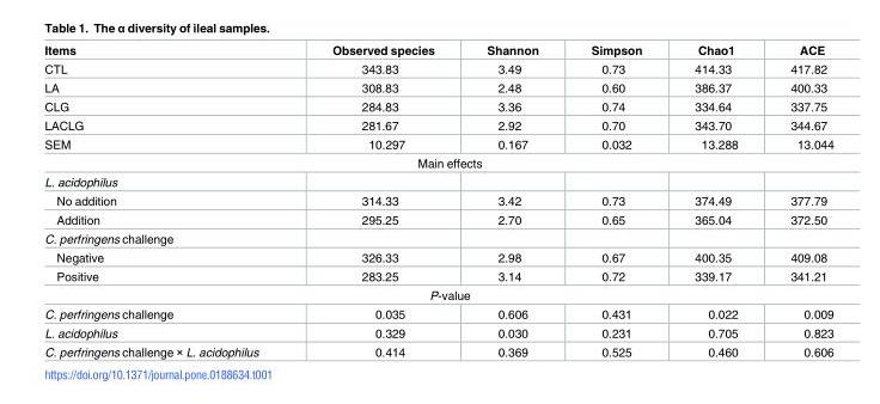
<table><thead><tr><td>Items</td><td>Observed species</td><td>Shannon</td><td>Simpson</td><td>Chao1</td><td>ACE</td></tr></thead><tbody><tr><td>CTL</td><td>343.83</td><td>3.49</td><td>0.73</td><td>414.33</td><td>417.82</td></tr><tr><td>LA</td><td>308.83</td><td>2.48</td><td>0.60</td><td>386.37</td><td>400.33</td></tr><tr><td>CLG</td><td>284.83</td><td>3.36</td><td>0.74</td><td>334.64</td><td>337.75</td></tr><tr><td>LACLG</td><td>281.67</td><td>2.92</td><td>0.70</td><td>343.70</td><td>344.67</td></tr><tr><td>SEM</td><td>10.297</td><td>0.167</td><td>0.032</td><td>13.288</td><td>13.044</td></tr><tr><td colspan="6">Main effects</td></tr><tr><td colspan="6">L. acidophilus</td></tr><tr><td>No addition</td><td>314.33</td><td>3.42</td><td>0.73</td><td>374.49</td><td>377.79</td></tr><tr><td>Addition</td><td>295.25</td><td>2.70</td><td>0.65</td><td>365.04</td><td>372.50</td></tr><tr><td colspan="6">C. perfringens challenge</td></tr><tr><td>Negative</td><td>326.33</td><td>2.98</td><td>0.67</td><td>400.35</td><td>409.08</td></tr><tr><td>Positive</td><td>283.25</td><td>3.14</td><td>0.72</td><td>339.17</td><td>341.21</td></tr><tr><td colspan="6">P-value</td></tr><tr><td>C. perfringens challenge</td><td>0.035</td><td>0.606</td><td>0.431</td><td>0.022</td><td>0.009</td></tr><tr><td>L. acidophilus</td><td>0.329</td><td>0.030</td><td>0.231</td><td>0.705</td><td>0.823</td></tr><tr><td>C. perfringens challenge × L. acidophilus</td><td>0.414</td><td>0.369</td><td>0.525</td><td>0.460</td><td>0.606</td></tr></tbody></table>